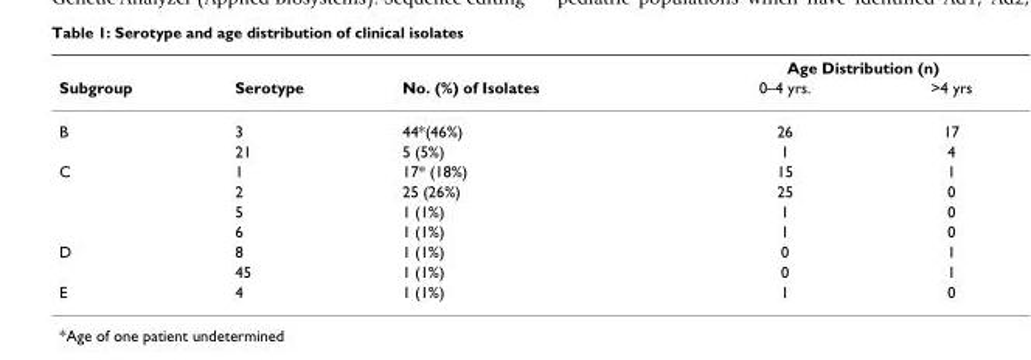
<table><thead><tr><td rowspan="2">Subgroup</td><td rowspan="2">Serotype</td><td rowspan="2">No. (%) of Isolates</td><td colspan="2">Age Distribution (n)</td></tr><tr><td>0–4 yrs.</td><td>&gt;4 yrs</td></tr></thead><tbody><tr><td rowspan="2">B</td><td>3</td><td>44*(46%)</td><td>26</td><td>17</td></tr><tr><td>21</td><td>5 (5%)</td><td>1</td><td>4</td></tr><tr><td rowspan="4">C</td><td>1</td><td>17* (18%)</td><td>15</td><td>1</td></tr><tr><td>2</td><td>25 (26%)</td><td>25</td><td>0</td></tr><tr><td>5</td><td>1 (1%)</td><td>1</td><td>0</td></tr><tr><td>6</td><td>1 (1%)</td><td>1</td><td>0</td></tr><tr><td rowspan="2">D</td><td>8</td><td>1 (1%)</td><td>0</td><td>1</td></tr><tr><td>45</td><td>1 (1%)</td><td>0</td><td>1</td></tr><tr><td>E</td><td>4</td><td>1 (1%)</td><td>1</td><td>0</td></tr></tbody></table>